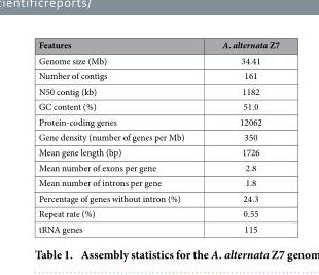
<table><thead><tr><td>Features</td><td>A. alternata Z7</td></tr></thead><tbody><tr><td>Genome size (Mb)</td><td>34.41</td></tr><tr><td>Number of contigs</td><td>161</td></tr><tr><td>N50 contig (kb)</td><td>1182</td></tr><tr><td>GC content (%)</td><td>51.0</td></tr><tr><td>Protein-coding genes</td><td>12062</td></tr><tr><td>Gene density (number of genes per Mb)</td><td>350</td></tr><tr><td>Mean gene length (bp)</td><td>1726</td></tr><tr><td>Mean number of exons per gene</td><td>2.8</td></tr><tr><td>Mean number of introns per gene</td><td>1.8</td></tr><tr><td>Percentage of genes without intron (%)</td><td>24.3</td></tr><tr><td>Repeat rate (%)</td><td>0.55</td></tr><tr><td>tRNA genes</td><td>115</td></tr></tbody></table>